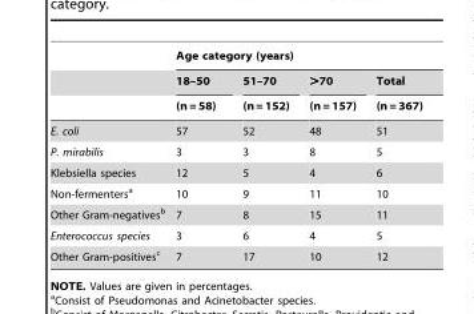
<table><thead><tr><td rowspan="3"></td><td colspan="4">Age category (years)</td></tr><tr><td rowspan="2">18–50 (n = 58)</td><td rowspan="2">51–70 (n = 152)</td><td rowspan="2">&gt;70 (n = 157)</td><td rowspan="2">Total (n = 367)</td></tr><tr></tr></thead><tbody><tr><td>E. coli</td><td>57</td><td>52</td><td>48</td><td>51</td></tr><tr><td>P. mirabilis</td><td>3</td><td>3</td><td>8</td><td>5</td></tr><tr><td>Klebsiella species</td><td>12</td><td>5</td><td>4</td><td>6</td></tr><tr><td>Non-fermenters<sup>a</sup></td><td>10</td><td>9</td><td>11</td><td>10</td></tr><tr><td>Other Gram-negatives<sup>b</sup></td><td>7</td><td>8</td><td>15</td><td>11</td></tr><tr><td>Enterococcus species</td><td>3</td><td>6</td><td>4</td><td>5</td></tr><tr><td>Other Gram-positives<sup>c</sup></td><td>7</td><td>17</td><td>10</td><td>12</td></tr></tbody></table>